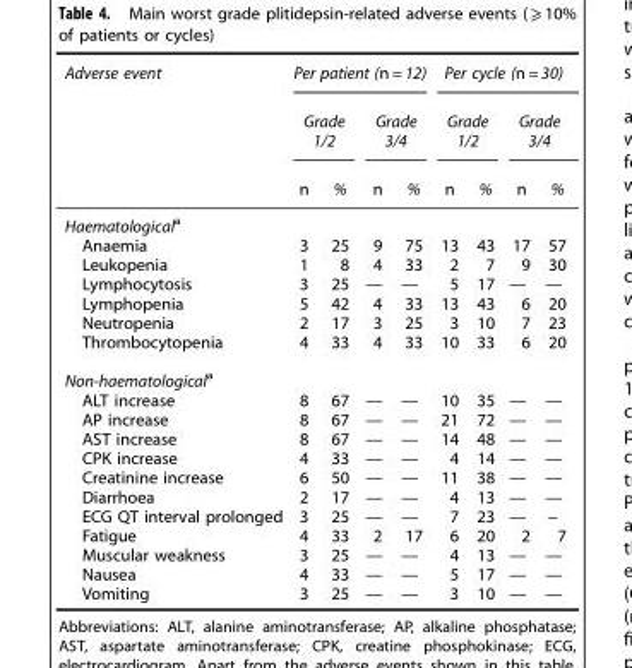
<table><thead><tr><td rowspan="3">Adverse event</td><td colspan="4">Per patient (n = 12)</td><td colspan="4">Per cycle (n = 30)</td></tr><tr><td colspan="2">Grade 1/2</td><td colspan="2">Grade 3/4</td><td colspan="2">Grade 1/2</td><td colspan="2">Grade 3/4</td></tr><tr><td>n</td><td>%</td><td>n</td><td>%</td><td>n</td><td>%</td><td>n</td><td>%</td></tr></thead><tbody><tr><td colspan="9">Haematological<sup>a</sup></td></tr><tr><td>Anaemia</td><td>3</td><td>25</td><td>9</td><td>75</td><td>13</td><td>43</td><td>17</td><td>57</td></tr><tr><td>Leukopenia</td><td>1</td><td>8</td><td>4</td><td>33</td><td>2</td><td>7</td><td>9</td><td>30</td></tr><tr><td>Lymphocytosis</td><td>3</td><td>25</td><td>—</td><td>—</td><td>5</td><td>17</td><td>—</td><td>—</td></tr><tr><td>Lymphopenia</td><td>5</td><td>42</td><td>4</td><td>33</td><td>13</td><td>43</td><td>6</td><td>20</td></tr><tr><td>Neutropenia</td><td>2</td><td>17</td><td>3</td><td>25</td><td>3</td><td>10</td><td>7</td><td>23</td></tr><tr><td>Thrombocytopenia</td><td>4</td><td>33</td><td>4</td><td>33</td><td>10</td><td>33</td><td>6</td><td>20</td></tr><tr><td colspan="9">Non-haematological<sup>a</sup></td></tr><tr><td>ALT increase</td><td>8</td><td>67</td><td>—</td><td>—</td><td>10</td><td>35</td><td>—</td><td>—</td></tr><tr><td>AP increase</td><td>8</td><td>67</td><td>—</td><td>—</td><td>21</td><td>72</td><td>—</td><td>—</td></tr><tr><td>AST increase</td><td>8</td><td>67</td><td>—</td><td>—</td><td>14</td><td>48</td><td>—</td><td>—</td></tr><tr><td>CPK increase</td><td>4</td><td>33</td><td>—</td><td>—</td><td>4</td><td>14</td><td>—</td><td>—</td></tr><tr><td>Creatinine increase</td><td>6</td><td>50</td><td>—</td><td>—</td><td>11</td><td>38</td><td>—</td><td>—</td></tr><tr><td>Diarrhoea</td><td>2</td><td>17</td><td>—</td><td>—</td><td>4</td><td>13</td><td>—</td><td>—</td></tr><tr><td>ECG QT interval prolonged</td><td>3</td><td>25</td><td>—</td><td>—</td><td>7</td><td>23</td><td>—</td><td>−</td></tr><tr><td>Fatigue</td><td>4</td><td>33</td><td>2</td><td>17</td><td>6</td><td>20</td><td>2</td><td>7</td></tr><tr><td>Muscular weakness</td><td>3</td><td>25</td><td>—</td><td>—</td><td>4</td><td>13</td><td>—</td><td>—</td></tr><tr><td>Nausea</td><td>4</td><td>33</td><td>—</td><td>—</td><td>5</td><td>17</td><td>—</td><td>—</td></tr><tr><td>Vomiting</td><td>3</td><td>25</td><td>—</td><td>—</td><td>3</td><td>10</td><td>—</td><td>—</td></tr></tbody></table>